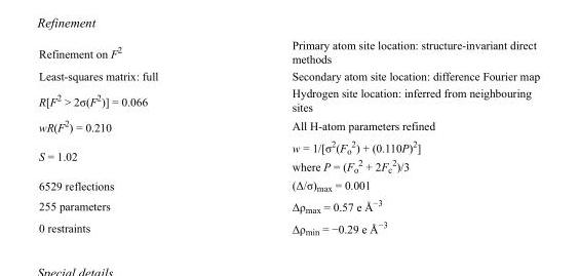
<table><tbody><tr><td>Refinement on F<sup>2</sup></td><td>Primary atom site location: structure-invariant direct methods</td></tr><tr><td>Least-squares matrix: full</td><td>Secondary atom site location: difference Fourier map</td></tr><tr><td>R[F<sup>2</sup> &gt; 2σ(F<sup>2</sup>)] = 0.066</td><td>Hydrogen site location: inferred from neighbouring sites</td></tr><tr><td>wR(F<sup>2</sup>) = 0.210</td><td>All H-atom parameters refined</td></tr><tr><td>S = 1.02</td><td>w = 1/[σ<sup>2</sup>(F<sub>o</sub> <sup>2</sup>) + (0.110P)<sup>2</sup>] where P = (F<sub>o</sub> <sup>2</sup> + 2F<sub>c</sub> <sup>2</sup>)/3</td></tr><tr><td>6529 reflections</td><td>(Δ/σ)<sub>max</sub> = 0.001</td></tr><tr><td>255 parameters</td><td>Δρ<sub>max</sub> = 0.57 e Å<sup>−3</sup></td></tr><tr><td>0 restraints</td><td>Δρ<sub>min</sub> = −0.29 e Å<sup>−3</sup></td></tr></tbody></table>